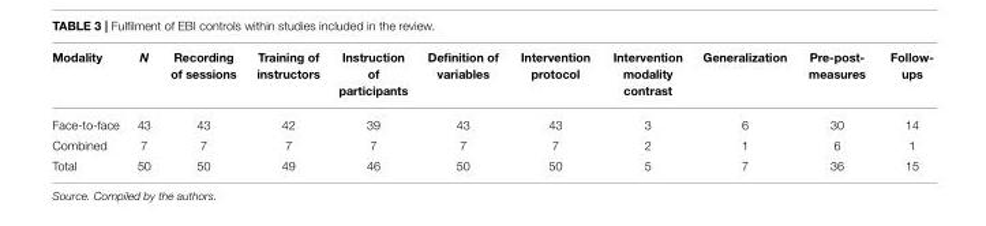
<table><thead><tr><td>Modality</td><td>N</td><td>Recording of sessions</td><td>Training of instructors</td><td>Instruction of participants</td><td>Definition of variables</td><td>Intervention protocol</td><td>Intervention modality contrast</td><td>Generalization</td><td>Pre-post- measures</td><td>Follow- ups</td></tr></thead><tbody><tr><td>Face-to-face</td><td>43</td><td>43</td><td>42</td><td>39</td><td>43</td><td>43</td><td>3</td><td>6</td><td>30</td><td>14</td></tr><tr><td>Combined</td><td>7</td><td>7</td><td>7</td><td>7</td><td>7</td><td>7</td><td>2</td><td>1</td><td>6</td><td>1</td></tr><tr><td>Total</td><td>50</td><td>50</td><td>49</td><td>46</td><td>50</td><td>50</td><td>5</td><td>7</td><td>36</td><td>15</td></tr></tbody></table>